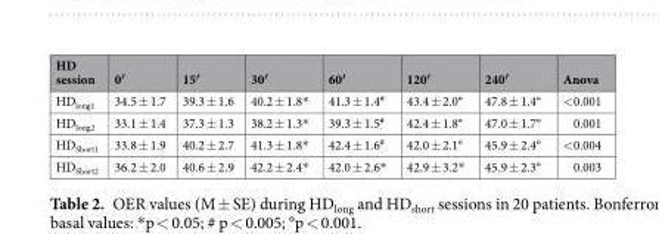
<table><thead><tr><td>HD session</td><td>0′</td><td>15′</td><td>30′</td><td>60′</td><td>120′</td><td>240′</td><td>Anova</td></tr></thead><tbody><tr><td>HD<sub>long1</sub></td><td>34.5 ± 1.7</td><td>39.3 ± 1.6</td><td>40.2 ± 1.8*</td><td>41.3 ± 1.4<sup>#</sup></td><td>43.4 ± 2.0°</td><td>47.8 ± 1.4°</td><td>&lt;0.001</td></tr><tr><td>HD<sub>long2</sub></td><td>33.1 ± 1.4</td><td>37.3 ± 1.3</td><td>38.2 ± 1.3*</td><td>39.3 ± 1.5<sup>#</sup></td><td>42.4 ± 1.8°</td><td>47.0 ± 1.7°</td><td>0.001</td></tr><tr><td>HD<sub>Short1</sub></td><td>33.8 ± 1.9</td><td>40.2 ± 2.7</td><td>41.3 ± 1.8*</td><td>42.4 ± 1.6<sup>#</sup></td><td>42.0 ± 2.1°</td><td>45.9 ± 2.4°</td><td>&lt;0.004</td></tr><tr><td>HD<sub>Short2</sub></td><td>36.2 ± 2.0</td><td>40.6 ± 2.9</td><td>42.2 ± 2.4*</td><td>42.0 ± 2.6*</td><td>42.9 ± 3.2*</td><td>45.9 ± 2.3°</td><td>0.003</td></tr></tbody></table>